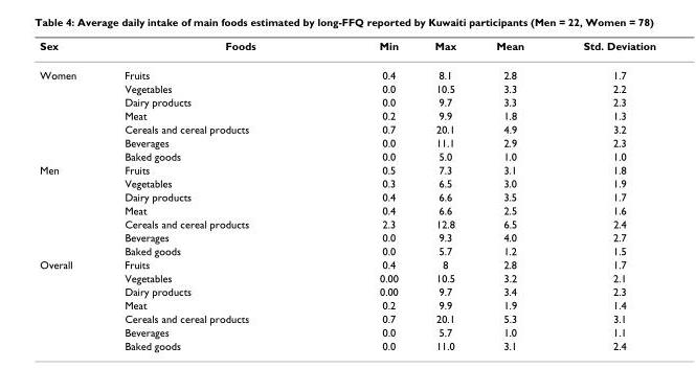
<table><thead><tr><td>Sex</td><td>Foods</td><td>Min</td><td>Max</td><td>Mean</td><td>Std. Deviation</td></tr></thead><tbody><tr><td rowspan="7">Women</td><td>Fruits</td><td>0.4</td><td>8.1</td><td>2.8</td><td>1.7</td></tr><tr><td>Vegetables</td><td>0.0</td><td>10.5</td><td>3.3</td><td>2.2</td></tr><tr><td>Dairy products</td><td>0.0</td><td>9.7</td><td>3.3</td><td>2.3</td></tr><tr><td>Meat</td><td>0.2</td><td>9.9</td><td>1.8</td><td>1.3</td></tr><tr><td>Cereals and cereal products</td><td>0.7</td><td>20.1</td><td>4.9</td><td>3.2</td></tr><tr><td>Beverages</td><td>0.0</td><td>11.1</td><td>2.9</td><td>2.3</td></tr><tr><td>Baked goods</td><td>0.0</td><td>5.0</td><td>1.0</td><td>1.0</td></tr><tr><td rowspan="7">Men</td><td>Fruits</td><td>0.5</td><td>7.3</td><td>3.1</td><td>1.8</td></tr><tr><td>Vegetables</td><td>0.3</td><td>6.5</td><td>3.0</td><td>1.9</td></tr><tr><td>Dairy products</td><td>0.4</td><td>6.6</td><td>3.5</td><td>1.7</td></tr><tr><td>Meat</td><td>0.4</td><td>6.6</td><td>2.5</td><td>1.6</td></tr><tr><td>Cereals and cereal products</td><td>2.3</td><td>12.8</td><td>6.5</td><td>2.4</td></tr><tr><td>Beverages</td><td>0.0</td><td>9.3</td><td>4.0</td><td>2.7</td></tr><tr><td>Baked goods</td><td>0.0</td><td>5.7</td><td>1.2</td><td>1.5</td></tr><tr><td rowspan="7">Overall</td><td>Fruits</td><td>0.4</td><td>8</td><td>2.8</td><td>1.7</td></tr><tr><td>Vegetables</td><td>0.00</td><td>10.5</td><td>3.2</td><td>2.1</td></tr><tr><td>Dairy products</td><td>0.00</td><td>9.7</td><td>3.4</td><td>2.3</td></tr><tr><td>Meat</td><td>0.2</td><td>9.9</td><td>1.9</td><td>1.4</td></tr><tr><td>Cereals and cereal products</td><td>0.7</td><td>20.1</td><td>5.3</td><td>3.1</td></tr><tr><td>Beverages</td><td>0.0</td><td>5.7</td><td>1.0</td><td>1.1</td></tr><tr><td>Baked goods</td><td>0.0</td><td>11.0</td><td>3.1</td><td>2.4</td></tr></tbody></table>